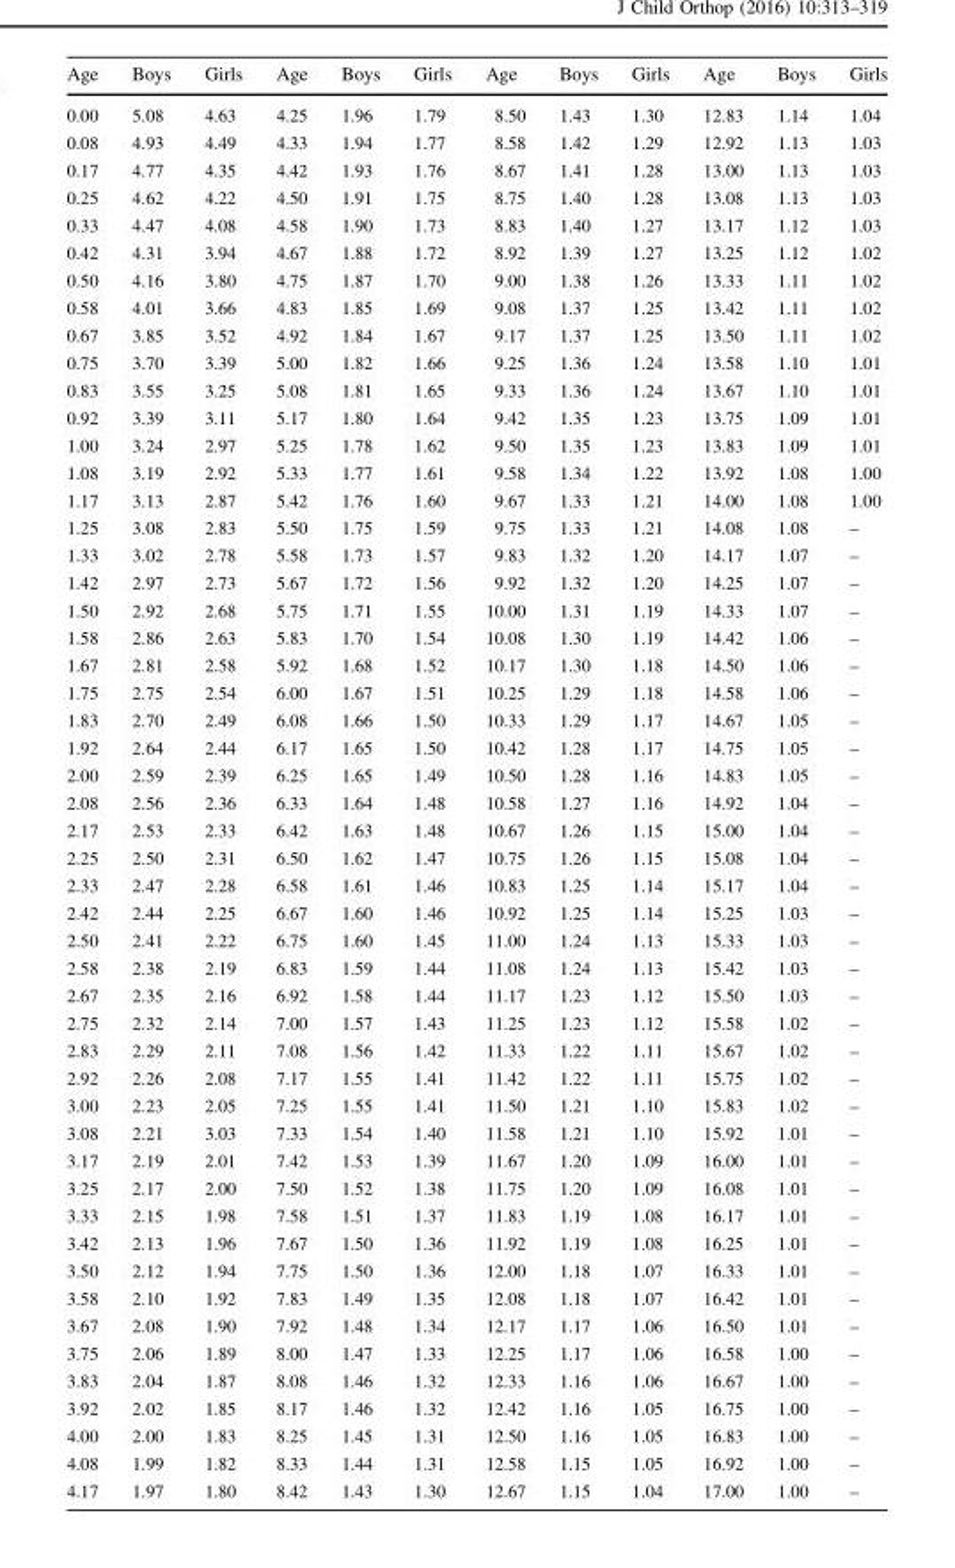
<table><thead><tr><td>Age</td><td>Boys</td><td>Girls</td><td>Age</td><td>Boys</td><td>Girls</td><td>Age</td><td>Boys</td><td>Girls</td><td>Age</td><td>Boys</td><td>Girls</td></tr></thead><tbody><tr><td>0.00</td><td>5.08</td><td>4.63</td><td>4.25</td><td>1.96</td><td>1.79</td><td>8.50</td><td>1.43</td><td>1.30</td><td>12.83</td><td>1.14</td><td>1.04</td></tr><tr><td>0.08</td><td>4.93</td><td>4.49</td><td>4.33</td><td>1.94</td><td>1.77</td><td>8.58</td><td>1.42</td><td>1.29</td><td>12.92</td><td>1.13</td><td>1.03</td></tr><tr><td>0.17</td><td>4.77</td><td>4.35</td><td>4.42</td><td>1.93</td><td>1.76</td><td>8.67</td><td>1.41</td><td>1.28</td><td>13.00</td><td>1.13</td><td>1.03</td></tr><tr><td>0.25</td><td>4.62</td><td>4.22</td><td>4.50</td><td>1.91</td><td>1.75</td><td>8.75</td><td>1.40</td><td>1.28</td><td>13.08</td><td>1.13</td><td>1.03</td></tr><tr><td>0.33</td><td>4.47</td><td>4.08</td><td>4.58</td><td>1.90</td><td>1.73</td><td>8.83</td><td>1.40</td><td>1.27</td><td>13.17</td><td>1.12</td><td>1.03</td></tr><tr><td>0.42</td><td>4.31</td><td>3.94</td><td>4.67</td><td>1.88</td><td>1.72</td><td>8.92</td><td>1.39</td><td>1.27</td><td>13.25</td><td>1.12</td><td>1.02</td></tr><tr><td>0.50</td><td>4.16</td><td>3.80</td><td>4.75</td><td>1.87</td><td>1.70</td><td>9.00</td><td>1.38</td><td>1.26</td><td>13.33</td><td>1.11</td><td>1.02</td></tr><tr><td>0.58</td><td>4.01</td><td>3.66</td><td>4.83</td><td>1.85</td><td>1.69</td><td>9.08</td><td>1.37</td><td>1.25</td><td>13.42</td><td>1.11</td><td>1.02</td></tr><tr><td>0.67</td><td>3.85</td><td>3.52</td><td>4.92</td><td>1.84</td><td>1.67</td><td>9.17</td><td>1.37</td><td>1.25</td><td>13.50</td><td>1.11</td><td>1.02</td></tr><tr><td>0.75</td><td>3.70</td><td>3.39</td><td>5.00</td><td>1.82</td><td>1.66</td><td>9.25</td><td>1.36</td><td>1.24</td><td>13.58</td><td>1.10</td><td>1.01</td></tr><tr><td>0.83</td><td>3.55</td><td>3.25</td><td>5.08</td><td>1.81</td><td>1.65</td><td>9.33</td><td>1.36</td><td>1.24</td><td>13.67</td><td>1.10</td><td>1.01</td></tr><tr><td>0.92</td><td>3.39</td><td>3.11</td><td>5.17</td><td>1.80</td><td>1.64</td><td>9.42</td><td>1.35</td><td>1.23</td><td>13.75</td><td>1.09</td><td>1.01</td></tr><tr><td>1.00</td><td>3.24</td><td>2.97</td><td>5.25</td><td>1.78</td><td>1.62</td><td>9.50</td><td>1.35</td><td>1.23</td><td>13.83</td><td>1.09</td><td>1.01</td></tr><tr><td>1.08</td><td>3.19</td><td>2.92</td><td>5.33</td><td>1.77</td><td>1.61</td><td>9.58</td><td>1.34</td><td>1.22</td><td>13.92</td><td>1.08</td><td>1.00</td></tr><tr><td>1.17</td><td>3.13</td><td>2.87</td><td>5.42</td><td>1.76</td><td>1.60</td><td>9.67</td><td>1.33</td><td>1.21</td><td>14.00</td><td>1.08</td><td>1.00</td></tr><tr><td>1.25</td><td>3.08</td><td>2.83</td><td>5.50</td><td>1.75</td><td>1.59</td><td>9.75</td><td>1.33</td><td>1.21</td><td>14.08</td><td>1.08</td><td>–</td></tr><tr><td>1.33</td><td>3.02</td><td>2.78</td><td>5.58</td><td>1.73</td><td>1.57</td><td>9.83</td><td>1.32</td><td>1.20</td><td>14.17</td><td>1.07</td><td>–</td></tr><tr><td>1.42</td><td>2.97</td><td>2.73</td><td>5.67</td><td>1.72</td><td>1.56</td><td>9.92</td><td>1.32</td><td>1.20</td><td>14.25</td><td>1.07</td><td>–</td></tr><tr><td>1.50</td><td>2.92</td><td>2.68</td><td>5.75</td><td>1.71</td><td>1.55</td><td>10.00</td><td>1.31</td><td>1.19</td><td>14.33</td><td>1.07</td><td>–</td></tr><tr><td>1.58</td><td>2.86</td><td>2.63</td><td>5.83</td><td>1.70</td><td>1.54</td><td>10.08</td><td>1.30</td><td>1.19</td><td>14.42</td><td>1.06</td><td>–</td></tr><tr><td>1.67</td><td>2.81</td><td>2.58</td><td>5.92</td><td>1.68</td><td>1.52</td><td>10.17</td><td>1.30</td><td>1.18</td><td>14.50</td><td>1.06</td><td>–</td></tr><tr><td>1.75</td><td>2.75</td><td>2.54</td><td>6.00</td><td>1.67</td><td>1.51</td><td>10.25</td><td>1.29</td><td>1.18</td><td>14.58</td><td>1.06</td><td>–</td></tr><tr><td>1.83</td><td>2.70</td><td>2.49</td><td>6.08</td><td>1.66</td><td>1.50</td><td>10.33</td><td>1.29</td><td>1.17</td><td>14.67</td><td>1.05</td><td>–</td></tr><tr><td>1.92</td><td>2.64</td><td>2.44</td><td>6.17</td><td>1.65</td><td>1.50</td><td>10.42</td><td>1.28</td><td>1.17</td><td>14.75</td><td>1.05</td><td>–</td></tr><tr><td>2.00</td><td>2.59</td><td>2.39</td><td>6.25</td><td>1.65</td><td>1.49</td><td>10.50</td><td>1.28</td><td>1.16</td><td>14.83</td><td>1.05</td><td>–</td></tr><tr><td>2.08</td><td>2.56</td><td>2.36</td><td>6.33</td><td>1.64</td><td>1.48</td><td>10.58</td><td>1.27</td><td>1.16</td><td>14.92</td><td>1.04</td><td>–</td></tr><tr><td>2.17</td><td>2.53</td><td>2.33</td><td>6.42</td><td>1.63</td><td>1.48</td><td>10.67</td><td>1.26</td><td>1.15</td><td>15.00</td><td>1.04</td><td>–</td></tr><tr><td>2.25</td><td>2.50</td><td>2.31</td><td>6.50</td><td>1.62</td><td>1.47</td><td>10.75</td><td>1.26</td><td>1.15</td><td>15.08</td><td>1.04</td><td>–</td></tr><tr><td>2.33</td><td>2.47</td><td>2.28</td><td>6.58</td><td>1.61</td><td>1.46</td><td>10.83</td><td>1.25</td><td>1.14</td><td>15.17</td><td>1.04</td><td>–</td></tr><tr><td>2.42</td><td>2.44</td><td>2.25</td><td>6.67</td><td>1.60</td><td>1.46</td><td>10.92</td><td>1.25</td><td>1.14</td><td>15.25</td><td>1.03</td><td>–</td></tr><tr><td>2.50</td><td>2.41</td><td>2.22</td><td>6.75</td><td>1.60</td><td>1.45</td><td>11.00</td><td>1.24</td><td>1.13</td><td>15.33</td><td>1.03</td><td>–</td></tr><tr><td>2.58</td><td>2.38</td><td>2.19</td><td>6.83</td><td>1.59</td><td>1.44</td><td>11.08</td><td>1.24</td><td>1.13</td><td>15.42</td><td>1.03</td><td>–</td></tr><tr><td>2.67</td><td>2.35</td><td>2.16</td><td>6.92</td><td>1.58</td><td>1.44</td><td>11.17</td><td>1.23</td><td>1.12</td><td>15.50</td><td>1.03</td><td>–</td></tr><tr><td>2.75</td><td>2.32</td><td>2.14</td><td>7.00</td><td>1.57</td><td>1.43</td><td>11.25</td><td>1.23</td><td>1.12</td><td>15.58</td><td>1.02</td><td>–</td></tr><tr><td>2.83</td><td>2.29</td><td>2.11</td><td>7.08</td><td>1.56</td><td>1.42</td><td>11.33</td><td>1.22</td><td>1.11</td><td>15.67</td><td>1.02</td><td>–</td></tr><tr><td>2.92</td><td>2.26</td><td>2.08</td><td>7.17</td><td>1.55</td><td>1.41</td><td>11.42</td><td>1.22</td><td>1.11</td><td>15.75</td><td>1.02</td><td>–</td></tr><tr><td>3.00</td><td>2.23</td><td>2.05</td><td>7.25</td><td>1.55</td><td>1.41</td><td>11.50</td><td>1.21</td><td>1.10</td><td>15.83</td><td>1.02</td><td>–</td></tr><tr><td>3.08</td><td>2.21</td><td>3.03</td><td>7.33</td><td>1.54</td><td>1.40</td><td>11.58</td><td>1.21</td><td>1.10</td><td>15.92</td><td>1.01</td><td>–</td></tr><tr><td>3.17</td><td>2.19</td><td>2.01</td><td>7.42</td><td>1.53</td><td>1.39</td><td>11.67</td><td>1.20</td><td>1.09</td><td>16.00</td><td>1.01</td><td>–</td></tr><tr><td>3.25</td><td>2.17</td><td>2.00</td><td>7.50</td><td>1.52</td><td>1.38</td><td>11.75</td><td>1.20</td><td>1.09</td><td>16.08</td><td>1.01</td><td>–</td></tr><tr><td>3.33</td><td>2.15</td><td>1.98</td><td>7.58</td><td>1.51</td><td>1.37</td><td>11.83</td><td>1.19</td><td>1.08</td><td>16.17</td><td>1.01</td><td>–</td></tr><tr><td>3.42</td><td>2.13</td><td>1.96</td><td>7.67</td><td>1.50</td><td>1.36</td><td>11.92</td><td>1.19</td><td>1.08</td><td>16.25</td><td>1.01</td><td>–</td></tr><tr><td>3.50</td><td>2.12</td><td>1.94</td><td>7.75</td><td>1.50</td><td>1.36</td><td>12.00</td><td>1.18</td><td>1.07</td><td>16.33</td><td>1.01</td><td>–</td></tr><tr><td>3.58</td><td>2.10</td><td>1.92</td><td>7.83</td><td>1.49</td><td>1.35</td><td>12.08</td><td>1.18</td><td>1.07</td><td>16.42</td><td>1.01</td><td>–</td></tr><tr><td>3.67</td><td>2.08</td><td>1.90</td><td>7.92</td><td>1.48</td><td>1.34</td><td>12.17</td><td>1.17</td><td>1.06</td><td>16.50</td><td>1.01</td><td>–</td></tr><tr><td>3.75</td><td>2.06</td><td>1.89</td><td>8.00</td><td>1.47</td><td>1.33</td><td>12.25</td><td>1.17</td><td>1.06</td><td>16.58</td><td>1.00</td><td>–</td></tr><tr><td>3.83</td><td>2.04</td><td>1.87</td><td>8.08</td><td>1.46</td><td>1.32</td><td>12.33</td><td>1.16</td><td>1.06</td><td>16.67</td><td>1.00</td><td>–</td></tr><tr><td>3.92</td><td>2.02</td><td>1.85</td><td>8.17</td><td>1.46</td><td>1.32</td><td>12.42</td><td>1.16</td><td>1.05</td><td>16.75</td><td>1.00</td><td>–</td></tr><tr><td>4.00</td><td>2.00</td><td>1.83</td><td>8.25</td><td>1.45</td><td>1.31</td><td>12.50</td><td>1.16</td><td>1.05</td><td>16.83</td><td>1.00</td><td>–</td></tr><tr><td>4.08</td><td>1.99</td><td>1.82</td><td>8.33</td><td>1.44</td><td>1.31</td><td>12.58</td><td>1.15</td><td>1.05</td><td>16.92</td><td>1.00</td><td>–</td></tr><tr><td>4.17</td><td>1.97</td><td>1.80</td><td>8.42</td><td>1.43</td><td>1.30</td><td>12.67</td><td>1.15</td><td>1.04</td><td>17.00</td><td>1.00</td><td>–</td></tr></tbody></table>